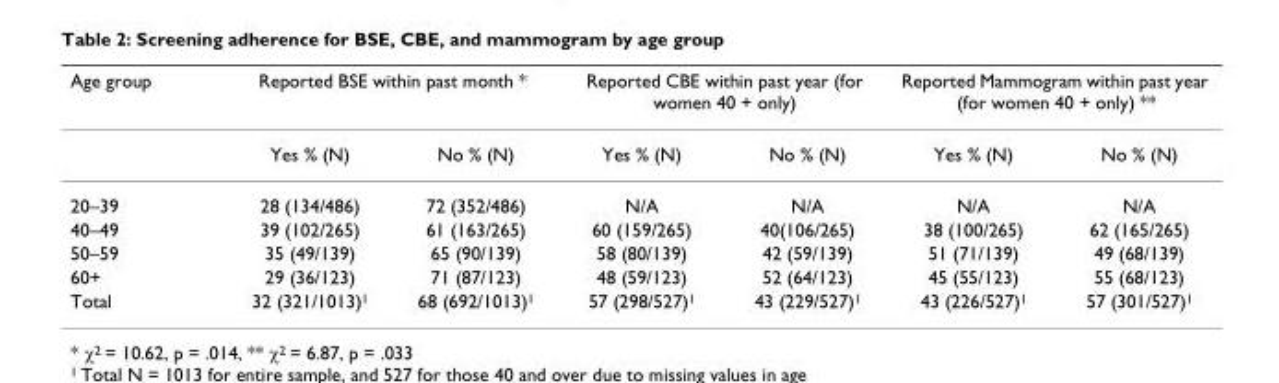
<table><thead><tr><td rowspan="2">Age group</td><td colspan="2">Reported BSE within past month *</td><td colspan="2">Reported CBE within past year (for women 40 + only)</td><td colspan="2">Reported Mammogram within past year (for women 40 + only) **</td></tr><tr><td>Yes % (N)</td><td>No % (N)</td><td>Yes % (N)</td><td>No % (N)</td><td>Yes % (N)</td><td>No % (N)</td></tr></thead><tbody><tr><td>20–39</td><td>28 (134/486)</td><td>72 (352/486)</td><td>N/A</td><td>N/A</td><td>N/A</td><td>N/A</td></tr><tr><td>40–49</td><td>39 (102/265)</td><td>61 (163/265)</td><td>60 (159/265)</td><td>40(106/265)</td><td>38 (100/265)</td><td>62 (165/265)</td></tr><tr><td>50–59</td><td>35 (49/139)</td><td>65 (90/139)</td><td>58 (80/139)</td><td>42 (59/139)</td><td>51 (71/139)</td><td>49 (68/139)</td></tr><tr><td>60+</td><td>29 (36/123)</td><td>71 (87/123)</td><td>48 (59/123)</td><td>52 (64/123)</td><td>45 (55/123)</td><td>55 (68/123)</td></tr><tr><td>Total</td><td>32 (321/1013)<sup>1</sup></td><td>68 (692/1013)<sup>1</sup></td><td>57 (298/527)<sup>1</sup></td><td>43 (229/527)<sup>1</sup></td><td>43 (226/527)<sup>1</sup></td><td>57 (301/527)<sup>1</sup></td></tr></tbody></table>